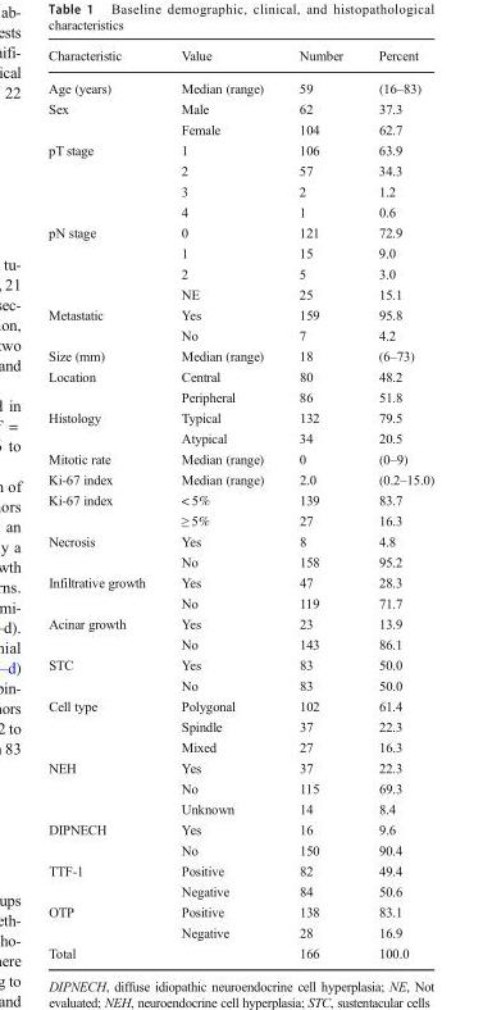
<table><thead><tr><td>Characteristic</td><td>Value</td><td>Number</td><td>Percent</td></tr></thead><tbody><tr><td>Age (years)</td><td>Median (range)</td><td>59</td><td>(16–83)</td></tr><tr><td rowspan="2">Sex</td><td>Male</td><td>62</td><td>37.3</td></tr><tr><td>Female</td><td>104</td><td>62.7</td></tr><tr><td rowspan="4">pT stage</td><td>1</td><td>106</td><td>63.9</td></tr><tr><td>2</td><td>57</td><td>34.3</td></tr><tr><td>3</td><td>2</td><td>1.2</td></tr><tr><td>4</td><td>1</td><td>0.6</td></tr><tr><td rowspan="4">pN stage</td><td>0</td><td>121</td><td>72.9</td></tr><tr><td>1</td><td>15</td><td>9.0</td></tr><tr><td>2</td><td>5</td><td>3.0</td></tr><tr><td>NE</td><td>25</td><td>15.1</td></tr><tr><td rowspan="2">Metastatic</td><td>Yes</td><td>159</td><td>95.8</td></tr><tr><td>No</td><td>7</td><td>4.2</td></tr><tr><td>Size (mm)</td><td>Median (range)</td><td>18</td><td>(6–73)</td></tr><tr><td rowspan="2">Location</td><td>Central</td><td>80</td><td>48.2</td></tr><tr><td>Peripheral</td><td>86</td><td>51.8</td></tr><tr><td rowspan="2">Histology</td><td>Typical</td><td>132</td><td>79.5</td></tr><tr><td>Atypical</td><td>34</td><td>20.5</td></tr><tr><td>Mitotic rate</td><td>Median (range)</td><td>0</td><td>(0–9)</td></tr><tr><td>Ki-67 index</td><td>Median (range)</td><td>2.0</td><td>(0.2–15.0)</td></tr><tr><td rowspan="2">Ki-67 index</td><td>&lt; 5%</td><td>139</td><td>83.7</td></tr><tr><td>≥ 5%</td><td>27</td><td>16.3</td></tr><tr><td rowspan="2">Necrosis</td><td>Yes</td><td>8</td><td>4.8</td></tr><tr><td>No</td><td>158</td><td>95.2</td></tr><tr><td rowspan="2">Infiltrative growth</td><td>Yes</td><td>47</td><td>28.3</td></tr><tr><td>No</td><td>119</td><td>71.7</td></tr><tr><td rowspan="2">Acinar growth</td><td>Yes</td><td>23</td><td>13.9</td></tr><tr><td>No</td><td>143</td><td>86.1</td></tr><tr><td rowspan="2">STC</td><td>Yes</td><td>83</td><td>50.0</td></tr><tr><td>No</td><td>83</td><td>50.0</td></tr><tr><td rowspan="3">Cell type</td><td>Polygonal</td><td>102</td><td>61.4</td></tr><tr><td>Spindle</td><td>37</td><td>22.3</td></tr><tr><td>Mixed</td><td>27</td><td>16.3</td></tr><tr><td rowspan="3">NEH</td><td>Yes</td><td>37</td><td>22.3</td></tr><tr><td>No</td><td>115</td><td>69.3</td></tr><tr><td>Unknown</td><td>14</td><td>8.4</td></tr><tr><td rowspan="2">DIPNECH</td><td>Yes</td><td>16</td><td>9.6</td></tr><tr><td>No</td><td>150</td><td>90.4</td></tr><tr><td rowspan="2">TTF-1</td><td>Positive</td><td>82</td><td>49.4</td></tr><tr><td>Negative</td><td>84</td><td>50.6</td></tr><tr><td rowspan="2">OTP</td><td>Positive</td><td>138</td><td>83.1</td></tr><tr><td>Negative</td><td>28</td><td>16.9</td></tr><tr><td>Total</td><td></td><td>166</td><td>100.0</td></tr></tbody></table>